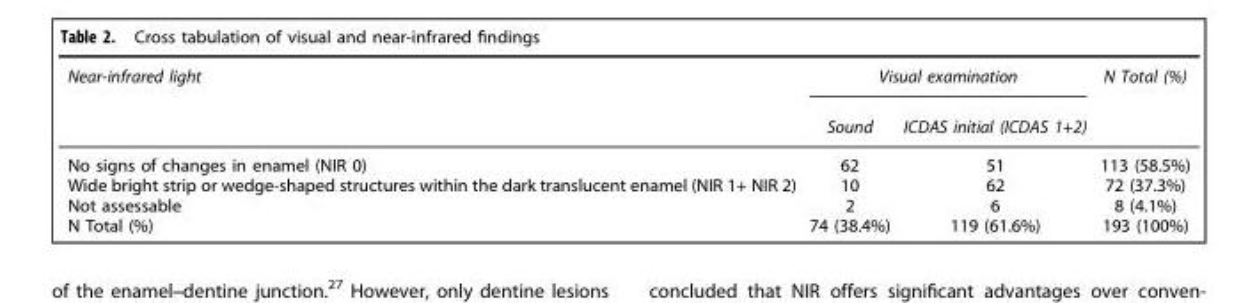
<table><thead><tr><td rowspan="2">Near-infrared light</td><td colspan="2">Visual examination</td><td rowspan="2">N Total (%)</td></tr><tr><td>Sound</td><td>ICDAS initial (ICDAS 1+2)</td></tr></thead><tbody><tr><td>No signs of changes in enamel (NIR 0)</td><td>62</td><td>51</td><td>113 (58.5%)</td></tr><tr><td>Wide bright strip or wedge-shaped structures within the dark translucent enamel (NIR 1+ NIR 2)</td><td>10</td><td>62</td><td>72 (37.3%)</td></tr><tr><td>Not assessable</td><td>2</td><td>6</td><td>8 (4.1%)</td></tr><tr><td>N Total (%)</td><td>74 (38.4%)</td><td>119 (61.6%)</td><td>193 (100%)</td></tr></tbody></table>